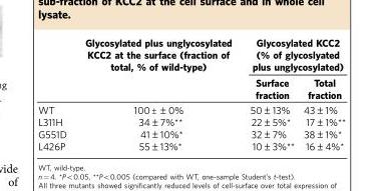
<table><thead><tr><td rowspan="2"></td><td rowspan="2">Glycosylated plus unglycosylated KCC2 at the surface (fraction of total, % of wild-type)</td><td colspan="2">Glycosylated KCC2 (% of glycoslyated plus unglycosylated)</td></tr><tr><td>Surface fraction</td><td>Total fraction</td></tr></thead><tbody><tr><td>WT</td><td>100<sup>±</sup>±0%</td><td>50±13%</td><td>43±1%</td></tr><tr><td>L311H</td><td>34±7%**</td><td>22±5%*</td><td>17±1%**</td></tr><tr><td>G551D</td><td>41±10%*</td><td>32±7%</td><td>38±1%*</td></tr><tr><td>L426P</td><td>55±13%*</td><td>10±3%**</td><td>16±4%*</td></tr></tbody></table>